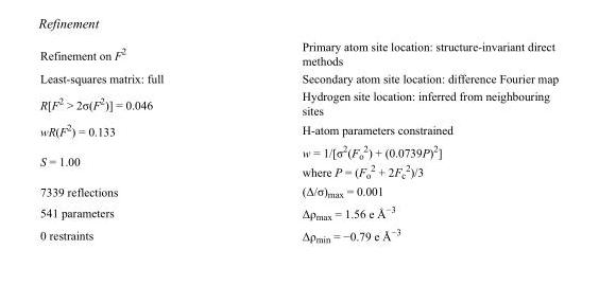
<table><tbody><tr><td>Refinement on F<sup>2</sup></td><td>Primary atom site location: structure-invariant direct methods</td></tr><tr><td>Least-squares matrix: full</td><td>Secondary atom site location: difference Fourier map</td></tr><tr><td>R[F<sup>2</sup> &gt; 2σ(F<sup>2</sup>)] = 0.046</td><td>Hydrogen site location: inferred from neighbouring sites</td></tr><tr><td>wR(F<sup>2</sup>) = 0.133</td><td>H-atom parameters constrained</td></tr><tr><td>S = 1.00</td><td>w = 1/[σ<sup>2</sup>(F<sub>o</sub> <sup>2</sup>) + (0.0739P)<sup>2</sup>] where P = (F<sub>o</sub> <sup>2</sup> + 2F<sub>c</sub> <sup>2</sup>)/3</td></tr><tr><td>7339 reflections</td><td>(Δ/σ)<sub>max</sub> = 0.001</td></tr><tr><td>541 parameters</td><td>Δρ<sub>max</sub> = 1.56 e Å<sup>−3</sup></td></tr><tr><td>0 restraints</td><td>Δρ<sub>min</sub> = −0.79 e Å<sup>−3</sup></td></tr></tbody></table>